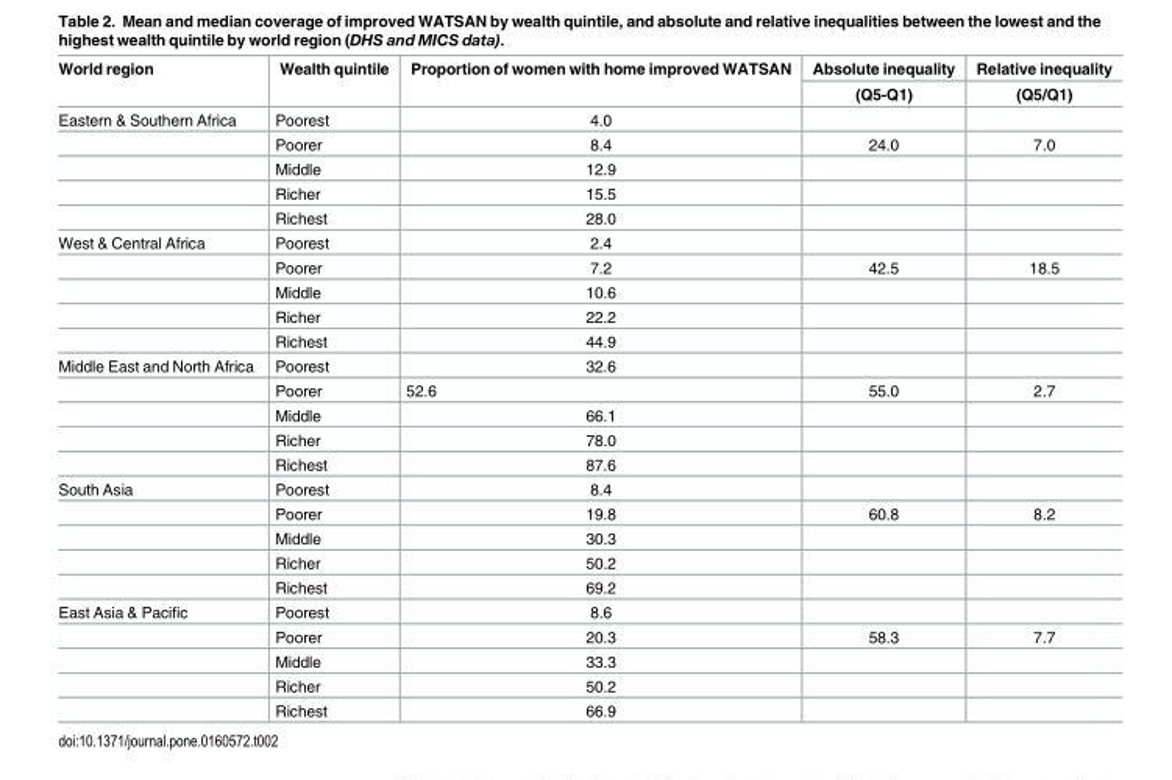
<table><thead><tr><td rowspan="2">World region</td><td rowspan="2">Wealth quintile</td><td rowspan="2">Proportion of women with home improved WATSAN</td><td rowspan="2">Absolute inequality (Q5-Q1)</td><td rowspan="2">Relative inequality (Q5/Q1)</td></tr><tr></tr></thead><tbody><tr><td rowspan="5">Eastern &amp; Southern Africa</td><td>Poorest</td><td>4.0</td><td></td><td></td></tr><tr><td>Poorer</td><td>8.4</td><td>24.0</td><td>7.0</td></tr><tr><td>Middle</td><td>12.9</td><td></td><td></td></tr><tr><td>Richer</td><td>15.5</td><td></td><td></td></tr><tr><td>Richest</td><td>28.0</td><td></td><td></td></tr><tr><td rowspan="5">West &amp; Central Africa</td><td>Poorest</td><td>2.4</td><td></td><td></td></tr><tr><td>Poorer</td><td>7.2</td><td>42.5</td><td>18.5</td></tr><tr><td>Middle</td><td>10.6</td><td></td><td></td></tr><tr><td>Richer</td><td>22.2</td><td></td><td></td></tr><tr><td>Richest</td><td>44.9</td><td></td><td></td></tr><tr><td rowspan="5">Middle East and North Africa</td><td>Poorest</td><td>32.6</td><td></td><td></td></tr><tr><td>Poorer</td><td>52.6</td><td>55.0</td><td>2.7</td></tr><tr><td>Middle</td><td>66.1</td><td></td><td></td></tr><tr><td>Richer</td><td>78.0</td><td></td><td></td></tr><tr><td>Richest</td><td>87.6</td><td></td><td></td></tr><tr><td rowspan="5">South Asia</td><td>Poorest</td><td>8.4</td><td></td><td></td></tr><tr><td>Poorer</td><td>19.8</td><td>60.8</td><td>8.2</td></tr><tr><td>Middle</td><td>30.3</td><td></td><td></td></tr><tr><td>Richer</td><td>50.2</td><td></td><td></td></tr><tr><td>Richest</td><td>69.2</td><td></td><td></td></tr><tr><td rowspan="5">East Asia &amp; Pacific</td><td>Poorest</td><td>8.6</td><td></td><td></td></tr><tr><td>Poorer</td><td>20.3</td><td>58.3</td><td>7.7</td></tr><tr><td>Middle</td><td>33.3</td><td></td><td></td></tr><tr><td>Richer</td><td>50.2</td><td></td><td></td></tr><tr><td>Richest</td><td>66.9</td><td></td><td></td></tr></tbody></table>